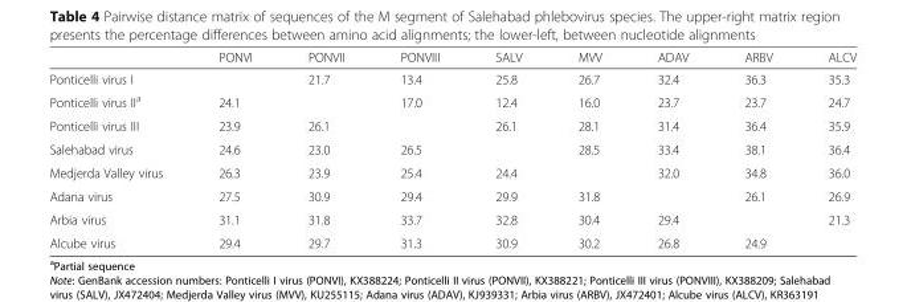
<table><thead><tr><td></td><td>PONVI</td><td>PONVII</td><td>PONVIII</td><td>SALV</td><td>MVV</td><td>ADAV</td><td>ARBV</td><td>ALCV</td></tr></thead><tbody><tr><td>Ponticelli virus I</td><td></td><td>21.7</td><td>13.4</td><td>25.8</td><td>26.7</td><td>32.4</td><td>36.3</td><td>35.3</td></tr><tr><td>Ponticelli virus II<sup>a</sup></td><td>24.1</td><td></td><td>17.0</td><td>12.4</td><td>16.0</td><td>23.7</td><td>23.7</td><td>24.7</td></tr><tr><td>Ponticelli virus III</td><td>23.9</td><td>26.1</td><td></td><td>26.1</td><td>28.1</td><td>31.4</td><td>36.4</td><td>35.9</td></tr><tr><td>Salehabad virus</td><td>24.6</td><td>23.0</td><td>26.5</td><td></td><td>28.5</td><td>33.4</td><td>38.1</td><td>36.4</td></tr><tr><td>Medjerda Valley virus</td><td>26.3</td><td>23.9</td><td>25.4</td><td>24.4</td><td></td><td>32.0</td><td>34.8</td><td>36.0</td></tr><tr><td>Adana virus</td><td>27.5</td><td>30.9</td><td>29.4</td><td>29.9</td><td>31.8</td><td></td><td>26.1</td><td>26.9</td></tr><tr><td>Arbia virus</td><td>31.1</td><td>31.8</td><td>33.7</td><td>32.8</td><td>30.4</td><td>29.4</td><td></td><td>21.3</td></tr><tr><td>Alcube virus</td><td>29.4</td><td>29.7</td><td>31.3</td><td>30.9</td><td>30.2</td><td>26.8</td><td>24.9</td><td></td></tr></tbody></table>